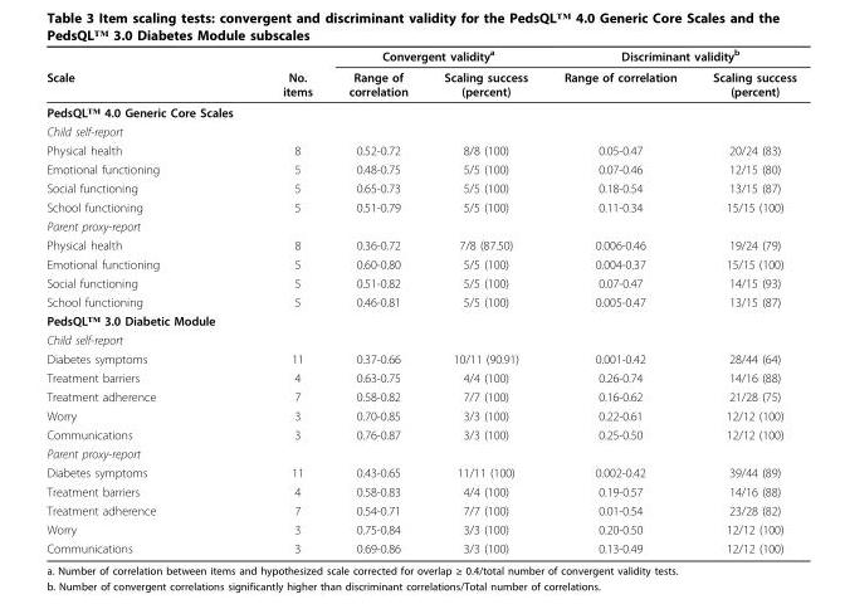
<table><thead><tr><td rowspan="2">Scale</td><td rowspan="2">No. items</td><td colspan="2">Convergent validity<sup>a</sup></td><td colspan="2">Discriminant validity<sup>b</sup></td></tr><tr><td>Range of correlation</td><td>Scaling success (percent)</td><td>Range of correlation</td><td>Scaling success (percent)</td></tr></thead><tbody><tr><td colspan="6">PedsQL™ 4.0 Generic Core Scales</td></tr><tr><td colspan="6">Child self-report</td></tr><tr><td>Physical health</td><td>8</td><td>0.52-0.72</td><td>8/8 (100)</td><td>0.05-0.47</td><td>20/24 (83)</td></tr><tr><td>Emotional functioning</td><td>5</td><td>0.48-0.75</td><td>5/5 (100)</td><td>0.07-0.46</td><td>12/15 (80)</td></tr><tr><td>Social functioning</td><td>5</td><td>0.65-0.73</td><td>5/5 (100)</td><td>0.18-0.54</td><td>13/15 (87)</td></tr><tr><td>School functioning</td><td>5</td><td>0.51-0.79</td><td>5/5 (100)</td><td>0.11-0.34</td><td>15/15 (100)</td></tr><tr><td colspan="6">Parent proxy-report</td></tr><tr><td>Physical health</td><td>8</td><td>0.36-0.72</td><td>7/8 (87.50)</td><td>0.006-0.46</td><td>19/24 (79)</td></tr><tr><td>Emotional functioning</td><td>5</td><td>0.60-0.80</td><td>5/5 (100)</td><td>0.004-0.37</td><td>15/15 (100)</td></tr><tr><td>Social functioning</td><td>5</td><td>0.51-0.82</td><td>5/5 (100)</td><td>0.07-0.47</td><td>14/15 (93)</td></tr><tr><td>School functioning</td><td>5</td><td>0.46-0.81</td><td>5/5 (100)</td><td>0.005-0.47</td><td>13/15 (87)</td></tr><tr><td colspan="6">PedsQL™ 3.0 Diabetic Module</td></tr><tr><td colspan="6">Child self-report</td></tr><tr><td>Diabetes symptoms</td><td>11</td><td>0.37-0.66</td><td>10/11 (90.91)</td><td>0.001-0.42</td><td>28/44 (64)</td></tr><tr><td>Treatment barriers</td><td>4</td><td>0.63-0.75</td><td>4/4 (100)</td><td>0.26-0.74</td><td>14/16 (88)</td></tr><tr><td>Treatment adherence</td><td>7</td><td>0.58-0.82</td><td>7/7 (100)</td><td>0.16-0.62</td><td>21/28 (75)</td></tr><tr><td>Worry</td><td>3</td><td>0.70-0.85</td><td>3/3 (100)</td><td>0.22-0.61</td><td>12/12 (100)</td></tr><tr><td>Communications</td><td>3</td><td>0.76-0.87</td><td>3/3 (100)</td><td>0.25-0.50</td><td>12/12 (100)</td></tr><tr><td colspan="6">Parent proxy-report</td></tr><tr><td>Diabetes symptoms</td><td>11</td><td>0.43-0.65</td><td>11/11 (100)</td><td>0.002-0.42</td><td>39/44 (89)</td></tr><tr><td>Treatment barriers</td><td>4</td><td>0.58-0.83</td><td>4/4 (100)</td><td>0.19-0.57</td><td>14/16 (88)</td></tr><tr><td>Treatment adherence</td><td>7</td><td>0.54-0.71</td><td>7/7 (100)</td><td>0.01-0.54</td><td>23/28 (82)</td></tr><tr><td>Worry</td><td>3</td><td>0.75-0.84</td><td>3/3 (100)</td><td>0.20-0.50</td><td>12/12 (100)</td></tr><tr><td>Communications</td><td>3</td><td>0.69-0.86</td><td>3/3 (100)</td><td>0.13-0.49</td><td>12/12 (100)</td></tr></tbody></table>